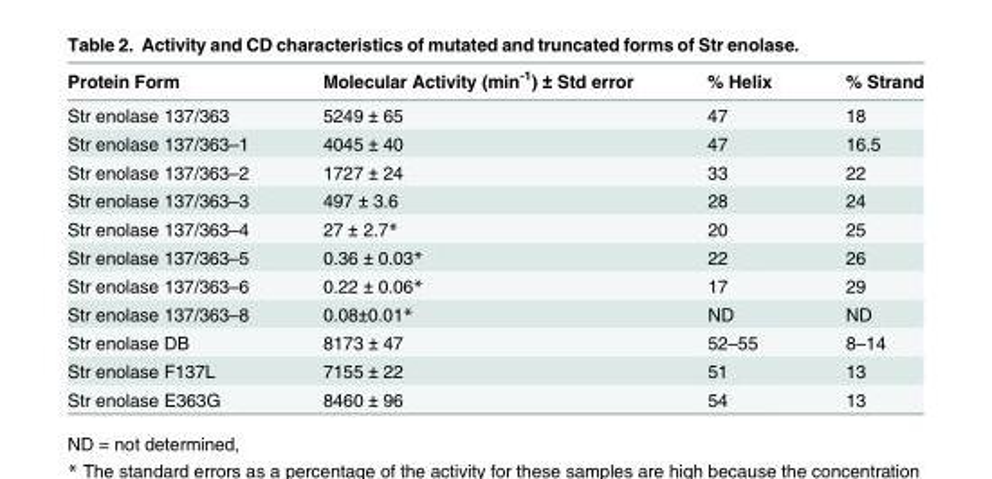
<table><thead><tr><td>Protein Form</td><td>Molecular Activity (min<sup>-1</sup>) ± Std error</td><td>% Helix</td><td>% Strand</td></tr></thead><tbody><tr><td>Str enolase 137/363</td><td>5249 ± 65</td><td>47</td><td>18</td></tr><tr><td>Str enolase 137/363–1</td><td>4045 ± 40</td><td>47</td><td>16.5</td></tr><tr><td>Str enolase 137/363–2</td><td>1727 ± 24</td><td>33</td><td>22</td></tr><tr><td>Str enolase 137/363–3</td><td>497 ± 3.6</td><td>28</td><td>24</td></tr><tr><td>Str enolase 137/363–4</td><td>27 ± 2.7*</td><td>20</td><td>25</td></tr><tr><td>Str enolase 137/363–5</td><td>0.36 ± 0.03*</td><td>22</td><td>26</td></tr><tr><td>Str enolase 137/363–6</td><td>0.22 ± 0.06*</td><td>17</td><td>29</td></tr><tr><td>Str enolase 137/363–8</td><td>0.08±0.01*</td><td>ND</td><td>ND</td></tr><tr><td>Str enolase DB</td><td>8173 ± 47</td><td>52–55</td><td>8–14</td></tr><tr><td>Str enolase F137L</td><td>7155 ± 22</td><td>51</td><td>13</td></tr><tr><td>Str enolase E363G</td><td>8460 ± 96</td><td>54</td><td>13</td></tr></tbody></table>